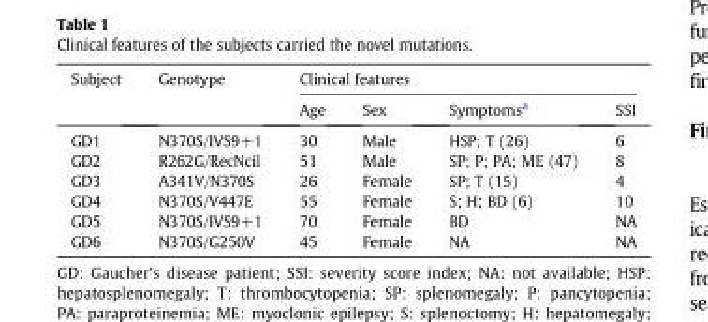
<table><thead><tr><td rowspan="2">Subject</td><td rowspan="2">Genotype</td><td colspan="4">Clinical features</td></tr><tr><td>Age</td><td>Sex</td><td>Symptoms<sup>a</sup></td><td>SSI</td></tr></thead><tbody><tr><td>GD1</td><td>N370S/IVS9+1</td><td>30</td><td>Male</td><td>HSP; T (26)</td><td>6</td></tr><tr><td>GD2</td><td>R262G/RecNcil</td><td>51</td><td>Male</td><td>SP; P; PA; ME (47)</td><td>8</td></tr><tr><td>GD3</td><td>A341V/N370S</td><td>26</td><td>Female</td><td>SP; T (15)</td><td>4</td></tr><tr><td>GD4</td><td>N370S/V447E</td><td>55</td><td>Female</td><td>S; H; BD (6)</td><td>10</td></tr><tr><td>GD5</td><td>N370S/IVS9+1</td><td>70</td><td>Female</td><td>BD</td><td>NA</td></tr><tr><td>GD6</td><td>N370S/G250V</td><td>45</td><td>Female</td><td>NA</td><td>NA</td></tr></tbody></table>